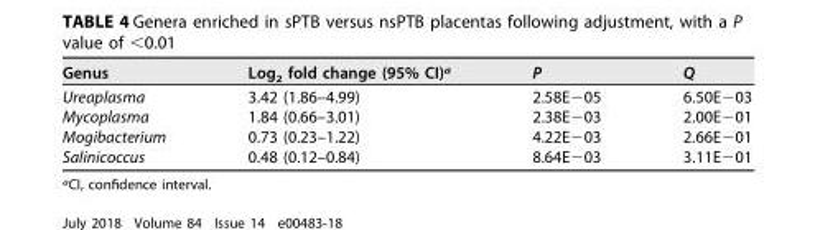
<table><thead><tr><td>Genus</td><td>Log<sub>2</sub> fold change (95% CI)<sup>a</sup></td><td>P</td><td>Q</td></tr></thead><tbody><tr><td>Ureaplasma</td><td>3.42 (1.86–4.99)</td><td>2.58E−05</td><td>6.50E−03</td></tr><tr><td>Mycoplasma</td><td>1.84 (0.66–3.01)</td><td>2.38E−03</td><td>2.00E−01</td></tr><tr><td>Mogibacterium</td><td>0.73 (0.23–1.22)</td><td>4.22E−03</td><td>2.66E−01</td></tr><tr><td>Salinicoccus</td><td>0.48 (0.12–0.84)</td><td>8.64E−03</td><td>3.11E−01</td></tr></tbody></table>